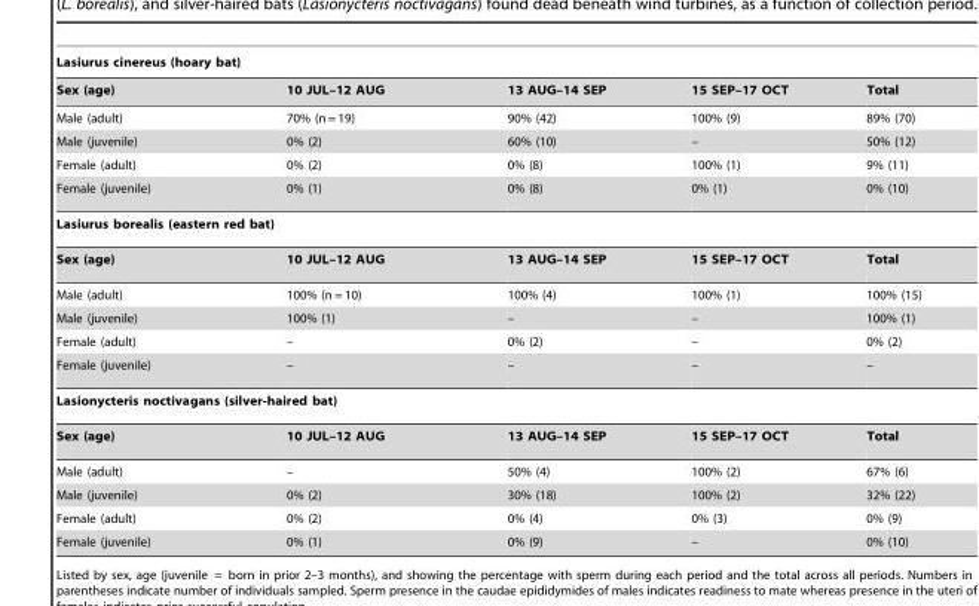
<table><thead><tr><td colspan="5">Lasiurus cinereus (hoary bat)</td></tr><tr><td>Sex (age)</td><td>10 JUL–12 AUG</td><td>13 AUG–14 SEP</td><td>15 SEP–17 OCT</td><td>Total</td></tr></thead><tbody><tr><td>Male (adult)</td><td>70% (n = 19)</td><td>90% (42)</td><td>100% (9)</td><td>89% (70)</td></tr><tr><td>Male (juvenile)</td><td>0% (2)</td><td>60% (10)</td><td>–</td><td>50% (12)</td></tr><tr><td>Female (adult)</td><td>0% (2)</td><td>0% (8)</td><td>100% (1)</td><td>9% (11)</td></tr><tr><td>Female (juvenile)</td><td>0% (1)</td><td>0% (8)</td><td>0% (1)</td><td>0% (10)</td></tr><tr><td colspan="5">Lasiurus borealis (eastern red bat)</td></tr><tr><td>Sex (age)</td><td>10 JUL–12 AUG</td><td>13 AUG–14 SEP</td><td>15 SEP–17 OCT</td><td>Total</td></tr><tr><td>Male (adult)</td><td>100% (n = 10)</td><td>100% (4)</td><td>100% (1)</td><td>100% (15)</td></tr><tr><td>Male (juvenile)</td><td>100% (1)</td><td>–</td><td>–</td><td>100% (1)</td></tr><tr><td>Female (adult)</td><td>–</td><td>0% (2)</td><td>–</td><td>0% (2)</td></tr><tr><td>Female (juvenile)</td><td>–</td><td>–</td><td>–</td><td>–</td></tr><tr><td colspan="5">Lasionycteris noctivagans (silver-haired bat)</td></tr><tr><td>Sex (age)</td><td>10 JUL–12 AUG</td><td>13 AUG–14 SEP</td><td>15 SEP–17 OCT</td><td>Total</td></tr><tr><td>Male (adult)</td><td>–</td><td>50% (4)</td><td>100% (2)</td><td>67% (6)</td></tr><tr><td>Male (juvenile)</td><td>0% (2)</td><td>30% (18)</td><td>100% (2)</td><td>32% (22)</td></tr><tr><td>Female (adult)</td><td>0% (2)</td><td>0% (4)</td><td>0% (3)</td><td>0% (9)</td></tr><tr><td>Female (juvenile)</td><td>0% (1)</td><td>0% (9)</td><td>–</td><td>0% (10)</td></tr></tbody></table>